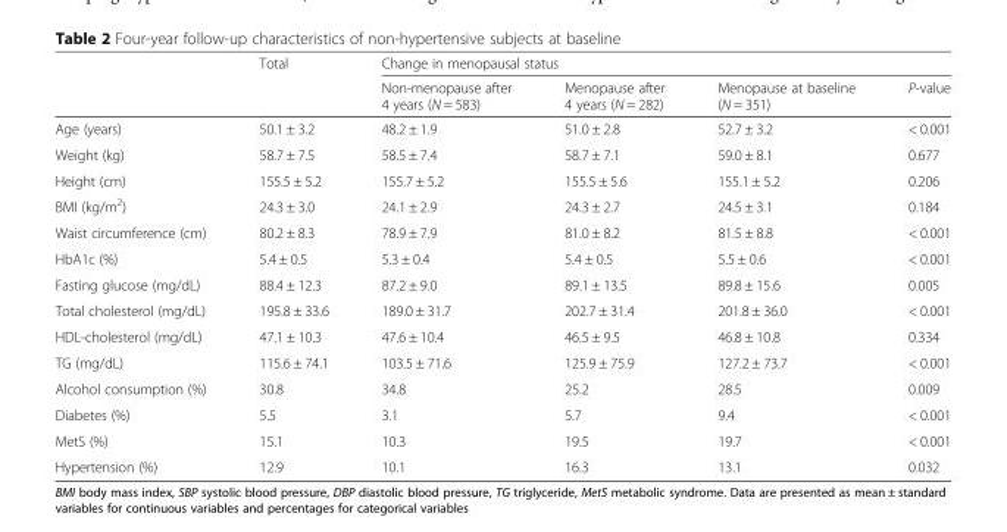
<table><thead><tr><td rowspan="2"></td><td rowspan="2">Total</td><td colspan="4">Change in menopausal status</td></tr><tr><td>Non-menopause after 4 years (N = 583)</td><td>Menopause after 4 years (N = 282)</td><td>Menopause at baseline (N = 351)</td><td>P-value</td></tr></thead><tbody><tr><td>Age (years)</td><td>50.1 ± 3.2</td><td>48.2 ± 1.9</td><td>51.0 ± 2.8</td><td>52.7 ± 3.2</td><td>&lt; 0.001</td></tr><tr><td>Weight (kg)</td><td>58.7 ± 7.5</td><td>58.5 ± 7.4</td><td>58.7 ± 7.1</td><td>59.0 ± 8.1</td><td>0.677</td></tr><tr><td>Height (cm)</td><td>155.5 ± 5.2</td><td>155.7 ± 5.2</td><td>155.5 ± 5.6</td><td>155.1 ± 5.2</td><td>0.206</td></tr><tr><td>BMI (kg/m<sup>2</sup>)</td><td>24.3 ± 3.0</td><td>24.1 ± 2.9</td><td>24.3 ± 2.7</td><td>24.5 ± 3.1</td><td>0.184</td></tr><tr><td>Waist circumference (cm)</td><td>80.2 ± 8.3</td><td>78.9 ± 7.9</td><td>81.0 ± 8.2</td><td>81.5 ± 8.8</td><td>&lt; 0.001</td></tr><tr><td>HbA1c (%)</td><td>5.4 ± 0.5</td><td>5.3 ± 0.4</td><td>5.4 ± 0.5</td><td>5.5 ± 0.6</td><td>&lt; 0.001</td></tr><tr><td>Fasting glucose (mg/dL)</td><td>88.4 ± 12.3</td><td>87.2 ± 9.0</td><td>89.1 ± 13.5</td><td>89.8 ± 15.6</td><td>0.005</td></tr><tr><td>Total cholesterol (mg/dL)</td><td>195.8 ± 33.6</td><td>189.0 ± 31.7</td><td>202.7 ± 31.4</td><td>201.8 ± 36.0</td><td>&lt; 0.001</td></tr><tr><td>HDL-cholesterol (mg/dL)</td><td>47.1 ± 10.3</td><td>47.6 ± 10.4</td><td>46.5 ± 9.5</td><td>46.8 ± 10.8</td><td>0.334</td></tr><tr><td>TG (mg/dL)</td><td>115.6 ± 74.1</td><td>103.5 ± 71.6</td><td>125.9 ± 75.9</td><td>127.2 ± 73.7</td><td>&lt; 0.001</td></tr><tr><td>Alcohol consumption (%)</td><td>30.8</td><td>34.8</td><td>25.2</td><td>28.5</td><td>0.009</td></tr><tr><td>Diabetes (%)</td><td>5.5</td><td>3.1</td><td>5.7</td><td>9.4</td><td>&lt; 0.001</td></tr><tr><td>MetS (%)</td><td>15.1</td><td>10.3</td><td>19.5</td><td>19.7</td><td>&lt; 0.001</td></tr><tr><td>Hypertension (%)</td><td>12.9</td><td>10.1</td><td>16.3</td><td>13.1</td><td>0.032</td></tr></tbody></table>